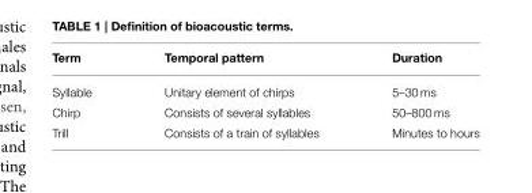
<table><thead><tr><td>Term</td><td>Temporal pattern</td><td>Duration</td></tr></thead><tbody><tr><td>Syllable</td><td>Unitary element of chirps</td><td>5–30 ms</td></tr><tr><td>Chirp</td><td>Consists of several syllables</td><td>50–800 ms</td></tr><tr><td>Trill</td><td>Consists of a train of syllables</td><td>Minutes to hours</td></tr></tbody></table>